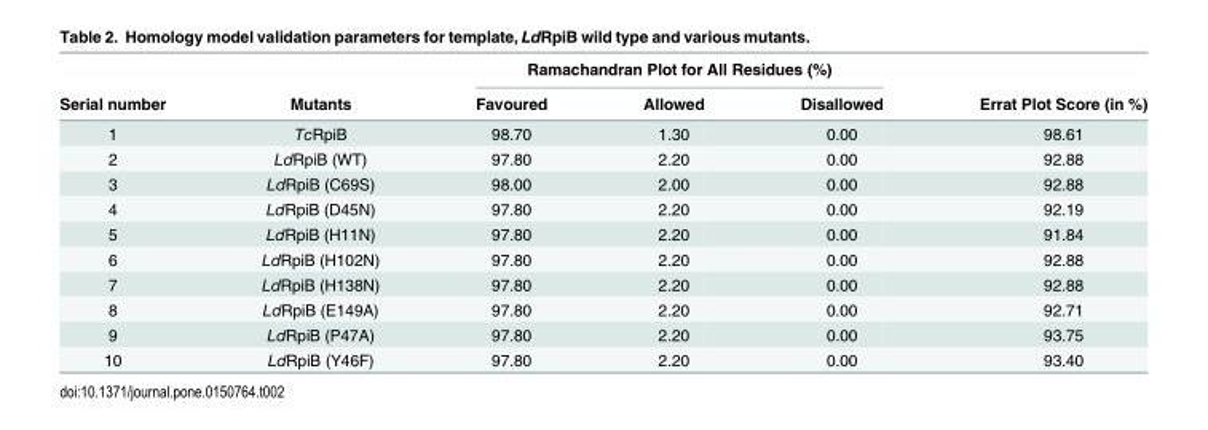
<table><thead><tr><td rowspan="2">Serial number</td><td rowspan="2">Mutants</td><td colspan="3">Ramachandran Plot for All Residues (%)</td><td rowspan="2">Errat Plot Score (in %)</td></tr><tr><td>Favoured</td><td>Allowed</td><td>Disallowed</td></tr></thead><tbody><tr><td>1</td><td>TcRpiB</td><td>98.70</td><td>1.30</td><td>0.00</td><td>98.61</td></tr><tr><td>2</td><td>LdRpiB (WT)</td><td>97.80</td><td>2.20</td><td>0.00</td><td>92.88</td></tr><tr><td>3</td><td>LdRpiB (C69S)</td><td>98.00</td><td>2.00</td><td>0.00</td><td>92.88</td></tr><tr><td>4</td><td>LdRpiB (D45N)</td><td>97.80</td><td>2.20</td><td>0.00</td><td>92.19</td></tr><tr><td>5</td><td>LdRpiB (H11N)</td><td>97.80</td><td>2.20</td><td>0.00</td><td>91.84</td></tr><tr><td>6</td><td>LdRpiB (H102N)</td><td>97.80</td><td>2.20</td><td>0.00</td><td>92.88</td></tr><tr><td>7</td><td>LdRpiB (H138N)</td><td>97.80</td><td>2.20</td><td>0.00</td><td>92.88</td></tr><tr><td>8</td><td>LdRpiB (E149A)</td><td>97.80</td><td>2.20</td><td>0.00</td><td>92.71</td></tr><tr><td>9</td><td>LdRpiB (P47A)</td><td>97.80</td><td>2.20</td><td>0.00</td><td>93.75</td></tr><tr><td>10</td><td>LdRpiB (Y46F)</td><td>97.80</td><td>2.20</td><td>0.00</td><td>93.40</td></tr></tbody></table>